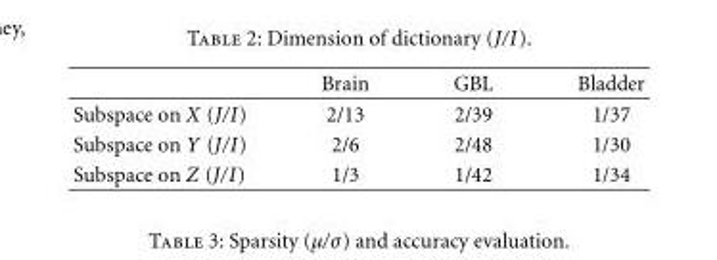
<table><thead><tr><td></td><td>Brain</td><td>GBL</td><td>Bladder</td></tr></thead><tbody><tr><td>Subspace on X (J/I)</td><td>2/13</td><td>2/39</td><td>1/37</td></tr><tr><td>Subspace on Y (J/I)</td><td>2/6</td><td>2/48</td><td>1/30</td></tr><tr><td>Subspace on Z (J/I)</td><td>1/3</td><td>1/42</td><td>1/34</td></tr></tbody></table>